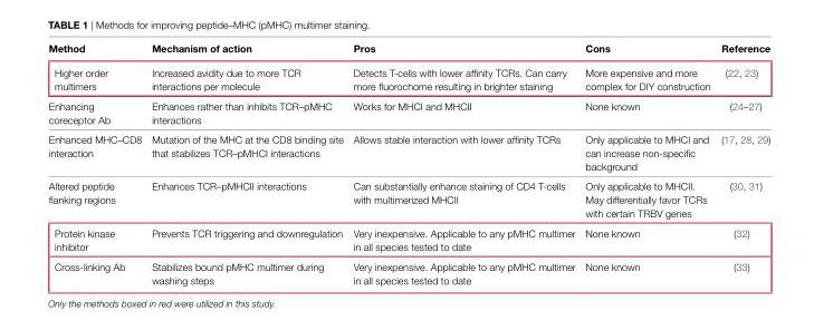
<table><thead><tr><td>Method</td><td>Mechanism of action</td><td>Pros</td><td>cons</td><td>reference</td></tr></thead><tbody><tr><td>Higher order multimers</td><td>Increased avidity due to more TCR interactions per molecule</td><td>Detects T-cells with lower affinity TCRs. Can carry more fluorochome resulting in brighter staining</td><td>More expensive and more complex for DIY construction</td><td>(22, 23)</td></tr><tr><td>Enhancing coreceptor Ab</td><td>Enhances rather than inhibits TCR–pMHC interactions</td><td>Works for MHCI and MHCII</td><td>None known</td><td>(24–27)</td></tr><tr><td>Enhanced MHC–CD8 interaction</td><td>Mutation of the MHC at the CD8 binding site that stabilizes TCR–pMHCI interactions</td><td>Allows stable interaction with lower affinity TCRs</td><td>Only applicable to MHCI and can increase non-specific background</td><td>(17, 28, 29)</td></tr><tr><td>Altered peptide flanking regions</td><td>Enhances TCR–pMHCII interactions</td><td>Can substantially enhance staining of CD4 T-cells with multimerized MHCII</td><td>Only applicable to MHCII. May differentially favor TCRs with certain TRBV genes</td><td>(30, 31)</td></tr><tr><td>Protein kinase inhibitor</td><td>Prevents TCR triggering and downregulation</td><td>Very inexpensive. Applicable to any pMHC multimer in all species tested to date</td><td>None known</td><td>(32)</td></tr><tr><td>Cross-linking Ab</td><td>Stabilizes bound pMHC multimer during washing steps</td><td>Very inexpensive. Applicable to any pMHC multimer in all species tested to date</td><td>None known</td><td>(33)</td></tr></tbody></table>